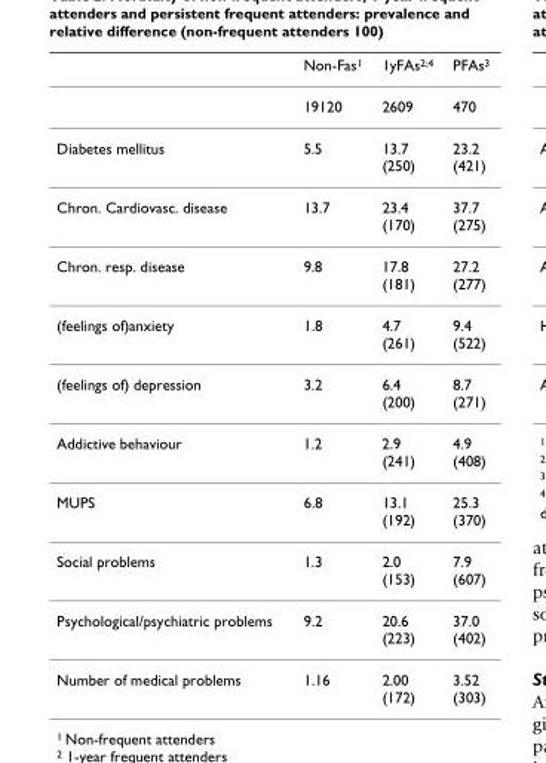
<table><thead><tr><td></td><td>Non-Fas<sup>1</sup></td><td>1yFAs<sup>2;4</sup></td><td>PFAs<sup>3</sup></td></tr></thead><tbody><tr><td></td><td>19120</td><td>2609</td><td>470</td></tr><tr><td>Diabetes mellitus</td><td>5.5</td><td>13.7 (250)</td><td>23.2 (421)</td></tr><tr><td>Chron. Cardiovasc. disease</td><td>13.7</td><td>23.4 (170)</td><td>37.7 (275)</td></tr><tr><td>Chron. resp. disease</td><td>9.8</td><td>17.8 (181)</td><td>27.2 (277)</td></tr><tr><td>(feelings of)anxiety</td><td>1.8</td><td>4.7 (261)</td><td>9.4 (522)</td></tr><tr><td>(feelings of) depression</td><td>3.2</td><td>6.4 (200)</td><td>8.7 (271)</td></tr><tr><td>Addictive behaviour</td><td>1.2</td><td>2.9 (241)</td><td>4.9 (408)</td></tr><tr><td>MUPS</td><td>6.8</td><td>13.1 (192)</td><td>25.3 (370)</td></tr><tr><td>Social problems</td><td>1.3</td><td>2.0 (153)</td><td>7.9 (607)</td></tr><tr><td>Psychological/psychiatric problems</td><td>9.2</td><td>20.6 (223)</td><td>37.0 (402)</td></tr><tr><td>Number of medical problems</td><td>1.16</td><td>2.00 (172)</td><td>3.52 (303)</td></tr></tbody></table>